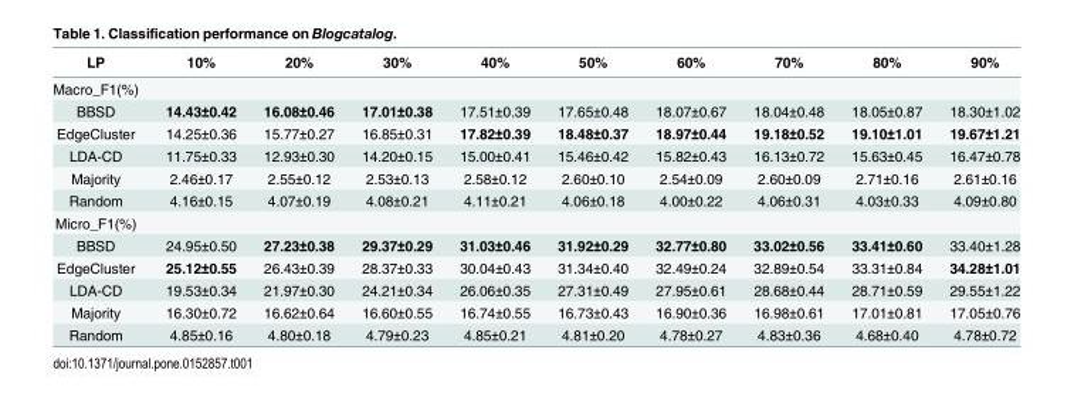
<table><thead><tr><td>LP</td><td>10%</td><td>20%</td><td>30%</td><td>40%</td><td>50%</td><td>60%</td><td>70%</td><td>80%</td><td>90%</td></tr></thead><tbody><tr><td colspan="10">Macro_F1(%)</td></tr><tr><td>BBSD</td><td>14.43±0.42</td><td>16.08±0.46</td><td>17.01±0.38</td><td>17.51±0.39</td><td>17.65±0.48</td><td>18.07±0.67</td><td>18.04±0.48</td><td>18.05±0.87</td><td>18.30±1.02</td></tr><tr><td>EdgeCluster</td><td>14.25±0.36</td><td>15.77±0.27</td><td>16.85±0.31</td><td>17.82±0.39</td><td>18.48±0.37</td><td>18.97±0.44</td><td>19.18±0.52</td><td>19.10±1.01</td><td>19.67±1.21</td></tr><tr><td>LDA-CD</td><td>11.75±0.33</td><td>12.93±0.30</td><td>14.20±0.15</td><td>15.00±0.41</td><td>15.46±0.42</td><td>15.82±0.43</td><td>16.13±0.72</td><td>15.63±0.45</td><td>16.47±0.78</td></tr><tr><td>Majority</td><td>2.46±0.17</td><td>2.55±0.12</td><td>2.53±0.13</td><td>2.58±0.12</td><td>2.60±0.10</td><td>2.54±0.09</td><td>2.60±0.09</td><td>2.71±0.16</td><td>2.61±0.16</td></tr><tr><td>Random</td><td>4.16±0.15</td><td>4.07±0.19</td><td>4.08±0.21</td><td>4.11±0.21</td><td>4.06±0.18</td><td>4.00±0.22</td><td>4.06±0.31</td><td>4.03±0.33</td><td>4.09±0.80</td></tr><tr><td colspan="10">Micro_F1(%)</td></tr><tr><td>BBSD</td><td>24.95±0.50</td><td>27.23±0.38</td><td>29.37±0.29</td><td>31.03±0.46</td><td>31.92±0.29</td><td>32.77±0.80</td><td>33.02±0.56</td><td>33.41±0.60</td><td>33.40±1.28</td></tr><tr><td>EdgeCluster</td><td>25.12±0.55</td><td>26.43±0.39</td><td>28.37±0.33</td><td>30.04±0.43</td><td>31.34±0.40</td><td>32.49±0.24</td><td>32.89±0.54</td><td>33.31±0.84</td><td>34.28±1.01</td></tr><tr><td>LDA-CD</td><td>19.53±0.34</td><td>21.97±0.30</td><td>24.21±0.34</td><td>26.06±0.35</td><td>27.31±0.49</td><td>27.95±0.61</td><td>28.68±0.44</td><td>28.71±0.59</td><td>29.55±1.22</td></tr><tr><td>Majority</td><td>16.30±0.72</td><td>16.62±0.64</td><td>16.60±0.55</td><td>16.74±0.55</td><td>16.73±0.43</td><td>16.90±0.36</td><td>16.98±0.61</td><td>17.01±0.81</td><td>17.05±0.76</td></tr><tr><td>Random</td><td>4.85±0.16</td><td>4.80±0.18</td><td>4.79±0.23</td><td>4.85±0.21</td><td>4.81±0.20</td><td>4.78±0.27</td><td>4.83±0.36</td><td>4.68±0.40</td><td>4.78±0.72</td></tr></tbody></table>